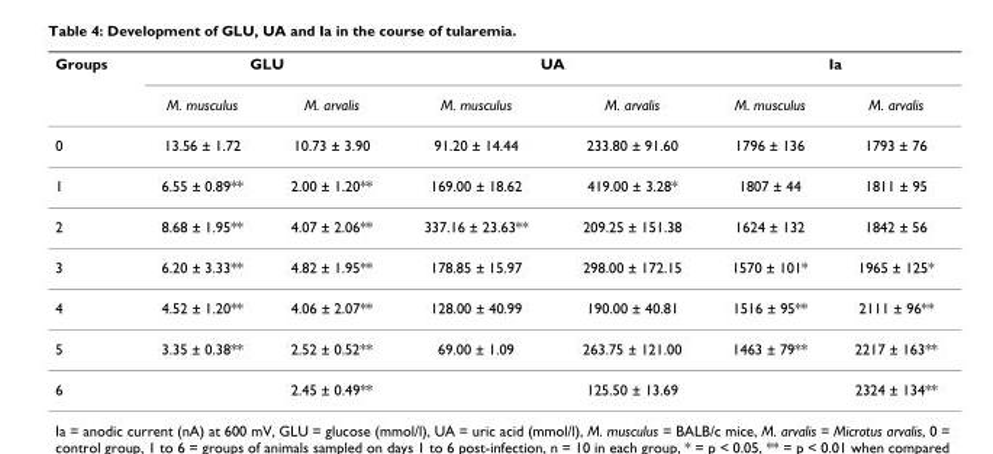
<table><thead><tr><td rowspan="2">Groups</td><td colspan="2">GLU</td><td colspan="2">UA</td><td colspan="2">Ia</td></tr><tr><td>M. musculus</td><td>M. arvalis</td><td>M. musculus</td><td>M. arvalis</td><td>M. musculus</td><td>M. arvalis</td></tr></thead><tbody><tr><td>0</td><td>13.56 ± 1.72</td><td>10.73 ± 3.90</td><td>91.20 ± 14.44</td><td>233.80 ± 91.60</td><td>1796 ± 136</td><td>1793 ± 76</td></tr><tr><td>1</td><td>6.55 ± 0.89**</td><td>2.00 ± 1.20**</td><td>169.00 ± 18.62</td><td>419.00 ± 3.28*</td><td>1807 ± 44</td><td>1811 ± 95</td></tr><tr><td>2</td><td>8.68 ± 1.95**</td><td>4.07 ± 2.06**</td><td>337.16 ± 23.63**</td><td>209.25 ± 151.38</td><td>1624 ± 132</td><td>1842 ± 56</td></tr><tr><td>3</td><td>6.20 ± 3.33**</td><td>4.82 ± 1.95**</td><td>178.85 ± 15.97</td><td>298.00 ± 172.15</td><td>1570 ± 101*</td><td>1965 ± 125*</td></tr><tr><td>4</td><td>4.52 ± 1.20**</td><td>4.06 ± 2.07**</td><td>128.00 ± 40.99</td><td>190.00 ± 40.81</td><td>1516 ± 95**</td><td>2111 ± 96**</td></tr><tr><td>5</td><td>3.35 ± 0.38**</td><td>2.52 ± 0.52**</td><td>69.00 ± 1.09</td><td>263.75 ± 121.00</td><td>1463 ± 79**</td><td>2217 ± 163**</td></tr><tr><td>6</td><td></td><td>2.45 ± 0.49**</td><td></td><td>125.50 ± 13.69</td><td></td><td>2324 ± 134**</td></tr></tbody></table>